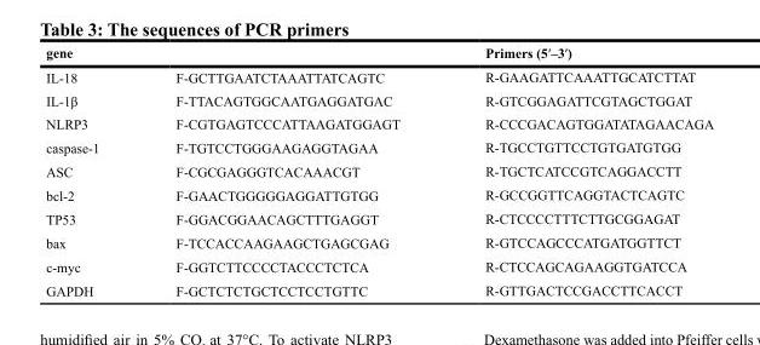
<table><thead><tr><td>gene</td><td></td><td>Primers (5′–3′)</td></tr></thead><tbody><tr><td>IL-18</td><td>F-GCTTGAATCTAAATTATCAGTC</td><td>R-GAAGATTCAAATTGCATCTTAT</td></tr><tr><td>IL-1β</td><td>F-TTACAGTGGCAATGAGGATGAC</td><td>R-GTCGGAGATTCGTAGCTGGAT</td></tr><tr><td>NLRP3</td><td>F-CGTGAGTCCCATTAAGATGGAGT</td><td>R-CCCGACAGTGGATATAGAACAGA</td></tr><tr><td>caspase-1</td><td>F-TGTCCTGGGAAGAGGTAGAA</td><td>R-TGCCTGTTCCTGTGATGTGG</td></tr><tr><td>ASC</td><td>F-CGCGAGGGTCACAAACGT</td><td>R-TGCTCATCCGTCAGGACCTT</td></tr><tr><td>bcl-2</td><td>F-GAACTGGGGGAGGATTGTGG</td><td>R-GCCGGTTCAGGTACTCAGTC</td></tr><tr><td>TP53</td><td>F-GGACGGAACAGCTTTGAGGT</td><td>R-CTCCCCTTTCTTGCGGAGAT</td></tr><tr><td>bax</td><td>F-TCCACCAAGAAGCTGAGCGAG</td><td>R-GTCCAGCCCATGATGGTTCT</td></tr><tr><td>c-myc</td><td>F-GGTCTTCCCCTACCCTCTCA</td><td>R-CTCCAGCAGAAGGTGATCCA</td></tr><tr><td>GAPDH</td><td>F-GCTCTCTGCTCCTCCTGTTC</td><td>R-GTTGACTCCGACCTTCACCT</td></tr></tbody></table>